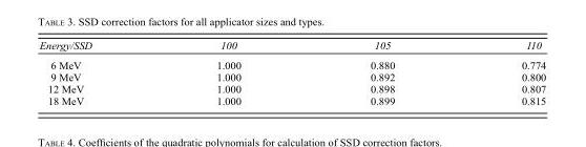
<table><thead><tr><td>Energy/SSD</td><td>100</td><td>105</td><td>110</td></tr></thead><tbody><tr><td>6 MeV</td><td>1.000</td><td>0.880</td><td>0.774</td></tr><tr><td>9 MeV</td><td>1.000</td><td>0.892</td><td>0.800</td></tr><tr><td>12 MeV</td><td>1.000</td><td>0.898</td><td>0.807</td></tr><tr><td>18 MeV</td><td>1.000</td><td>0.899</td><td>0.815</td></tr></tbody></table>